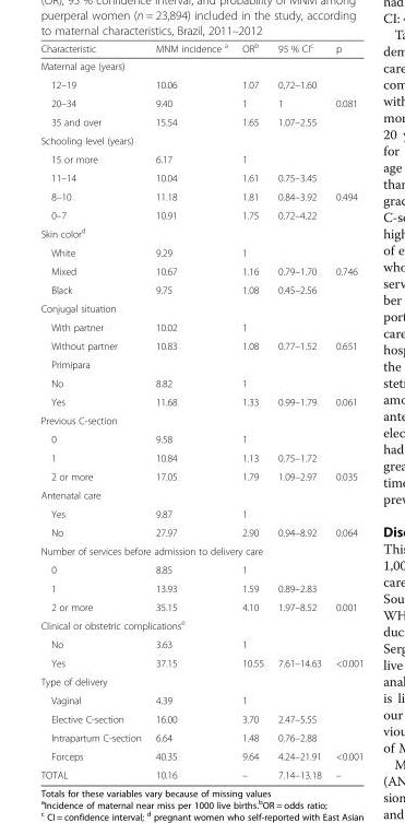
<table><thead><tr><td>Characteristic</td><td>MNM incidence <sup>a</sup></td><td>OR<sup>b</sup></td><td>95 % CI<sup>c</sup></td><td>p</td></tr></thead><tbody><tr><td colspan="5">Maternal age (years)</td></tr><tr><td>12–19</td><td>10.06</td><td>1.07</td><td>0,72–1.60</td><td></td></tr><tr><td>20–34</td><td>9.40</td><td>1</td><td>1</td><td>0.081</td></tr><tr><td>35 and over</td><td>15.54</td><td>1.65</td><td>1.07–2.55</td><td></td></tr><tr><td colspan="5">Schooling level (years)</td></tr><tr><td>15 or more</td><td>6.17</td><td>1</td><td></td><td></td></tr><tr><td>11–14</td><td>10.04</td><td>1.61</td><td>0.75–3.45</td><td></td></tr><tr><td>8–10</td><td>11.18</td><td>1.81</td><td>0.84–3.92</td><td>0.494</td></tr><tr><td>0–7</td><td>10.91</td><td>1.75</td><td>0.72–4.22</td><td></td></tr><tr><td colspan="5">Skin color<sup>d</sup></td></tr><tr><td>White</td><td>9.29</td><td>1</td><td></td><td></td></tr><tr><td>Mixed</td><td>10.67</td><td>1.16</td><td>0.79–1.70</td><td>0.746</td></tr><tr><td>Black</td><td>9.75</td><td>1.08</td><td>0.45–2.56</td><td></td></tr><tr><td colspan="5">Conjugal situation</td></tr><tr><td>With partner</td><td>10.02</td><td>1</td><td></td><td></td></tr><tr><td>Without partner</td><td>10.83</td><td>1.08</td><td>0.77–1.52</td><td>0.651</td></tr><tr><td colspan="5">Primipara</td></tr><tr><td>No</td><td>8.82</td><td>1</td><td></td><td></td></tr><tr><td>Yes</td><td>11.68</td><td>1.33</td><td>0.99–1.79</td><td>0.061</td></tr><tr><td colspan="5">Previous C-section</td></tr><tr><td>0</td><td>9.58</td><td>1</td><td></td><td></td></tr><tr><td>1</td><td>10.84</td><td>1.13</td><td>0.75–1.72</td><td></td></tr><tr><td>2 or more</td><td>17.05</td><td>1.79</td><td>1.09–2.97</td><td>0.035</td></tr><tr><td colspan="5">Antenatal care</td></tr><tr><td>Yes</td><td>9.87</td><td>1</td><td></td><td></td></tr><tr><td>No</td><td>27.97</td><td>2.90</td><td>0.94–8.92</td><td>0.064</td></tr><tr><td colspan="5">Number of services before admission to delivery care</td></tr><tr><td>0</td><td>8.85</td><td>1</td><td></td><td></td></tr><tr><td>1</td><td>13.93</td><td>1.59</td><td>0.89–2.83</td><td></td></tr><tr><td>2 or more</td><td>35.15</td><td>4.10</td><td>1.97–8.52</td><td>0.001</td></tr><tr><td colspan="5">Clinical or obstetric complications<sup>e</sup></td></tr><tr><td>No</td><td>3.63</td><td>1</td><td></td><td></td></tr><tr><td>Yes</td><td>37.15</td><td>10.55</td><td>7.61–14.63</td><td>&lt;0.001</td></tr><tr><td colspan="5">Type of delivery</td></tr><tr><td>Vaginal</td><td>4.39</td><td>1</td><td></td><td></td></tr><tr><td>Elective C-section</td><td>16.00</td><td>3.70</td><td>2.47–5.55</td><td></td></tr><tr><td>Intrapartum C-section</td><td>6.64</td><td>1.48</td><td>0.76–2.88</td><td></td></tr><tr><td>Forceps</td><td>40.35</td><td>9.64</td><td>4.24–21.91</td><td>&lt;0.001</td></tr><tr><td>TOTAL</td><td>10.16</td><td>–</td><td>7.14–13.18</td><td>–</td></tr></tbody></table>